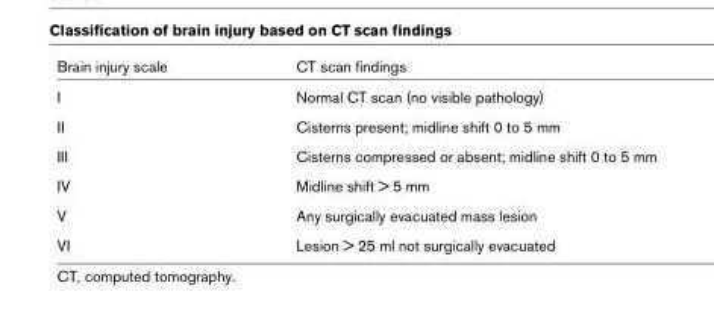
<table><thead><tr><td>Brain injury scale</td><td>CT scan findings</td></tr></thead><tbody><tr><td>I</td><td>Normal CT scan (no visible pathology)</td></tr><tr><td>II</td><td>Cisterns present; midline shift 0 to 5 mm</td></tr><tr><td>III</td><td>Cisterns compressed or absent; midline shift 0 to 5 mm</td></tr><tr><td>IV</td><td>Midline shift &gt; 5 mm</td></tr><tr><td>V</td><td>Any surgically evacuated mass lesion</td></tr><tr><td>VI</td><td>Lesion &gt; 25 ml not surgically evacuated</td></tr></tbody></table>